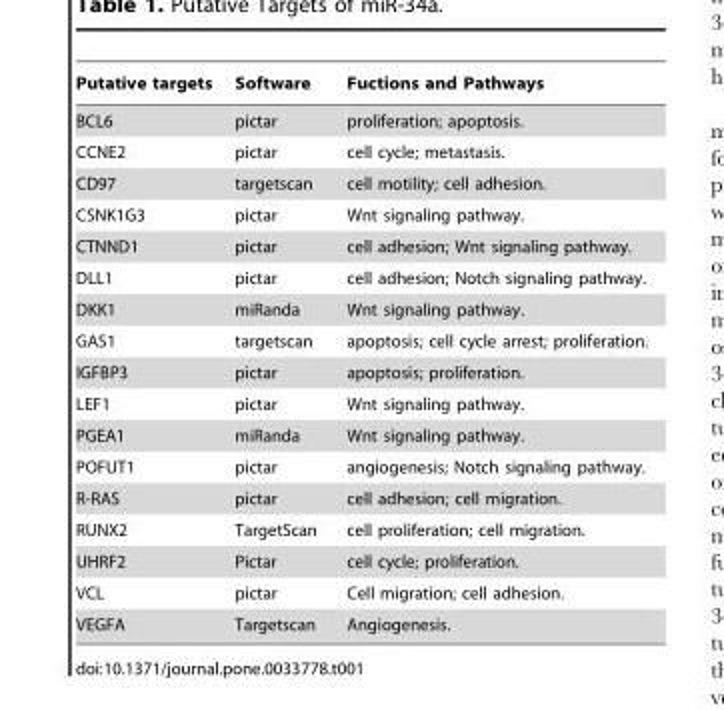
<table><thead><tr><td>Putative targets</td><td>Software</td><td>Fuctions and Pathways</td></tr></thead><tbody><tr><td>BCL6</td><td>pictar</td><td>proliferation; apoptosis.</td></tr><tr><td>CCNE2</td><td>pictar</td><td>cell cycle; metastasis.</td></tr><tr><td>CD97</td><td>targetscan</td><td>cell motility; cell adhesion.</td></tr><tr><td>CSNK1G3</td><td>pictar</td><td>Wnt signaling pathway.</td></tr><tr><td>CTNND1</td><td>pictar</td><td>cell adhesion; Wnt signaling pathway.</td></tr><tr><td>DLL1</td><td>pictar</td><td>cell adhesion; Notch signaling pathway.</td></tr><tr><td>DKK1</td><td>miRanda</td><td>Wnt signaling pathway.</td></tr><tr><td>GAS1</td><td>targetscan</td><td>apoptosis; cell cycle arrest; proliferation.</td></tr><tr><td>IGFBP3</td><td>pictar</td><td>apoptosis; proliferation.</td></tr><tr><td>LEF1</td><td>pictar</td><td>Wnt signaling pathway.</td></tr><tr><td>PGEA1</td><td>miRanda</td><td>Wnt signaling pathway.</td></tr><tr><td>POFUT1</td><td>pictar</td><td>angiogenesis; Notch signaling pathway.</td></tr><tr><td>R-RAS</td><td>pictar</td><td>cell adhesion; cell migration.</td></tr><tr><td>RUNX2</td><td>TargetScan</td><td>cell proliferation; cell migration.</td></tr><tr><td>UHRF2</td><td>Pictar</td><td>cell cycle; proliferation.</td></tr><tr><td>VCL</td><td>pictar</td><td>Cell migration; cell adhesion.</td></tr><tr><td>VEGFA</td><td>Targetscan</td><td>Angiogenesis.</td></tr></tbody></table>